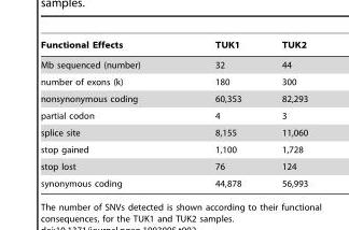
<table><thead><tr><td>Functional Effects</td><td>TUK1</td><td>TUK2</td></tr></thead><tbody><tr><td>Mb sequenced (number)</td><td>32</td><td>44</td></tr><tr><td>number of exons (k)</td><td>180</td><td>300</td></tr><tr><td>nonsynonymous coding</td><td>60,353</td><td>82,293</td></tr><tr><td>partial codon</td><td>4</td><td>3</td></tr><tr><td>splice site</td><td>8,155</td><td>11,060</td></tr><tr><td>stop gained</td><td>1,100</td><td>1,728</td></tr><tr><td>stop lost</td><td>76</td><td>124</td></tr><tr><td>synonymous coding</td><td>44,878</td><td>56,993</td></tr></tbody></table>